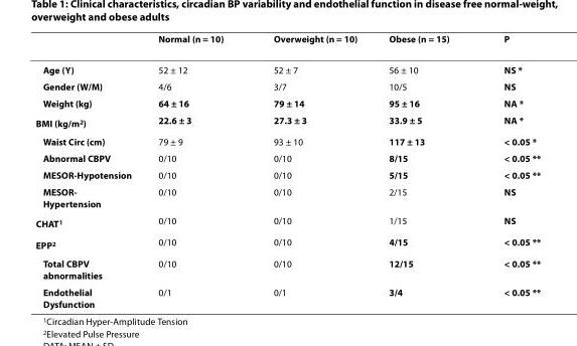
<table><thead><tr><td></td><td>Normal (n = 10)</td><td>Overweight (n = 10)</td><td>Obese (n = 15)</td><td>P</td></tr></thead><tbody><tr><td>Age (Y)</td><td>52 ± 12</td><td>52 ± 7</td><td>56 ± 10</td><td>NS *</td></tr><tr><td>Gender (W/M)</td><td>4/6</td><td>3/7</td><td>10/5</td><td>NS</td></tr><tr><td>Weight (kg)</td><td>64 ± 16</td><td>79 ± 14</td><td>95 ± 16</td><td>NA *</td></tr><tr><td>BMI (kg/m<sup>2</sup>)</td><td>22.6 ± 3</td><td>27.3 ± 3</td><td>33.9 ± 5</td><td>NA *</td></tr><tr><td>Waist Circ (cm)</td><td>79 ± 9</td><td>93 ± 10</td><td>117 ± 13</td><td>&lt; 0.05 *</td></tr><tr><td>Abnormal CBPV</td><td>0/10</td><td>0/10</td><td>8/15</td><td>&lt; 0.05 **</td></tr><tr><td>MESOR-Hypotension</td><td>0/10</td><td>0/10</td><td>5/15</td><td>&lt; 0.05 **</td></tr><tr><td>MESOR- Hypertension</td><td>0/10</td><td>0/10</td><td>2/15</td><td>NS</td></tr><tr><td>CHAT<sup>1</sup></td><td>0/10</td><td>0/10</td><td>1/15</td><td>NS</td></tr><tr><td>EPP<sup>2</sup></td><td>0/10</td><td>0/10</td><td>4/15</td><td>&lt; 0.05 **</td></tr><tr><td>Total CBPV abnormalities</td><td>0/10</td><td>0/10</td><td>12/15</td><td>&lt; 0.05 **</td></tr><tr><td>Endothelial Dysfunction</td><td>0/1</td><td>0/1</td><td>3/4</td><td>&lt; 0.05 **</td></tr></tbody></table>